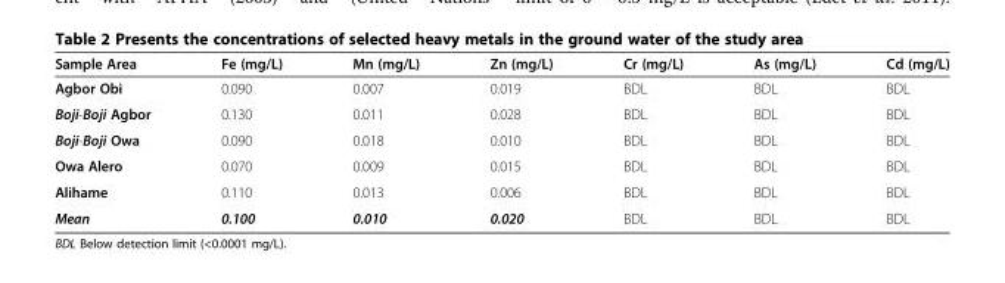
<table><thead><tr><td>Sample Area</td><td>Fe (mg/L)</td><td>Mn (mg/L)</td><td>Zn (mg/L)</td><td>Cr (mg/L)</td><td>As (mg/L)</td><td>Cd (mg/L)</td></tr></thead><tbody><tr><td>Agbor Obi</td><td>0.090</td><td>0.007</td><td>0.019</td><td>BDL</td><td>BDL</td><td>BDL</td></tr><tr><td>Boji-Boji Agbor</td><td>0.130</td><td>0.011</td><td>0.028</td><td>BDL</td><td>BDL</td><td>BDL</td></tr><tr><td>Boji-Boji Owa</td><td>0.090</td><td>0.018</td><td>0.010</td><td>BDL</td><td>BDL</td><td>BDL</td></tr><tr><td>Owa Alero</td><td>0.070</td><td>0.009</td><td>0.015</td><td>BDL</td><td>BDL</td><td>BDL</td></tr><tr><td>Alihame</td><td>0.110</td><td>0.013</td><td>0.006</td><td>BDL</td><td>BDL</td><td>BDL</td></tr><tr><td>Mean</td><td>0.100</td><td>0.010</td><td>0.020</td><td>BDL</td><td>BDL</td><td>BDL</td></tr></tbody></table>